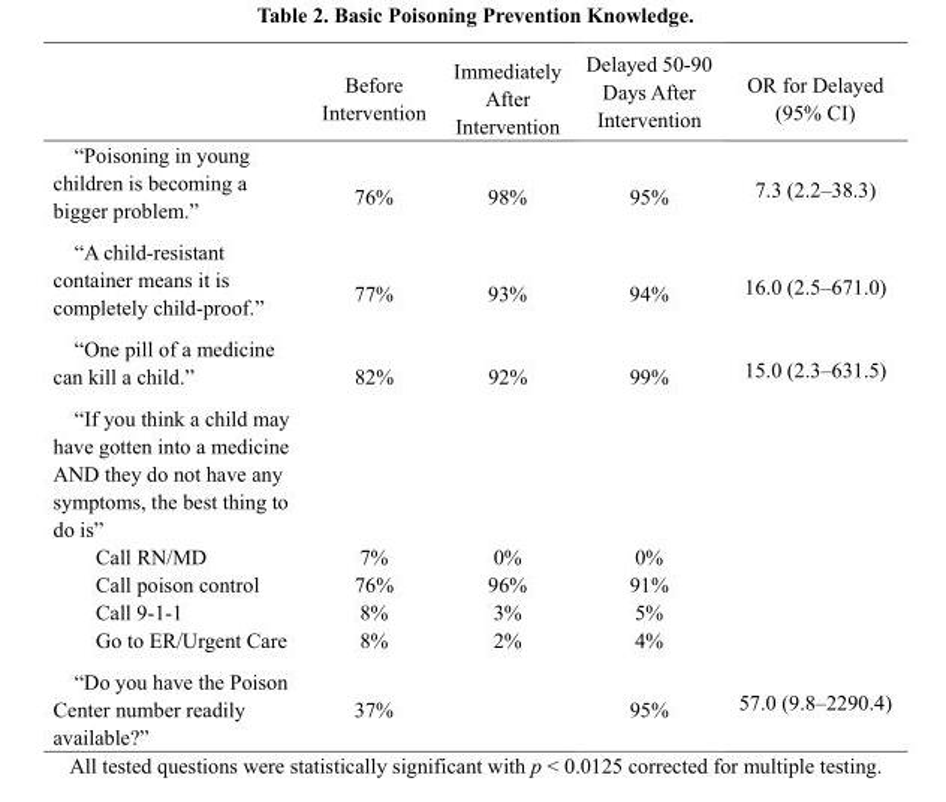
<table><thead><tr><td></td><td>Before Intervention</td><td>Immediately After Intervention</td><td>Delayed 50-90 Days After Intervention</td><td>OR for Delayed (95% CI)</td></tr></thead><tbody><tr><td>“Poisoning in young children is becoming a bigger problem.”</td><td>76%</td><td>98%</td><td>95%</td><td>7.3 (2.2–38.3)</td></tr><tr><td>“A child-resistant container means it is completely child-proof.”</td><td>77%</td><td>93%</td><td>94%</td><td>16.0 (2.5–671.0)</td></tr><tr><td>“One pill of a medicine can kill a child.”</td><td>82%</td><td>92%</td><td>99%</td><td>15.0 (2.3–631.5)</td></tr><tr><td colspan="5">“If you think a child may have gotten into a medicine AND they do not have any symptoms, the best thing to do is”</td></tr><tr><td>Call RN/MD</td><td>7%</td><td>0%</td><td>0%</td><td rowspan="4"></td></tr><tr><td>Call poison control</td><td>76%</td><td>96%</td><td>91%</td></tr><tr><td>Call 9-1-1</td><td>8%</td><td>3%</td><td>5%</td></tr><tr><td>Go to ER/Urgent Care</td><td>8%</td><td>2%</td><td>4%</td></tr><tr><td>“Do you have the Poison Center number readily available?”</td><td>37%</td><td></td><td>95%</td><td>57.0 (9.8–2290.4)</td></tr></tbody></table>